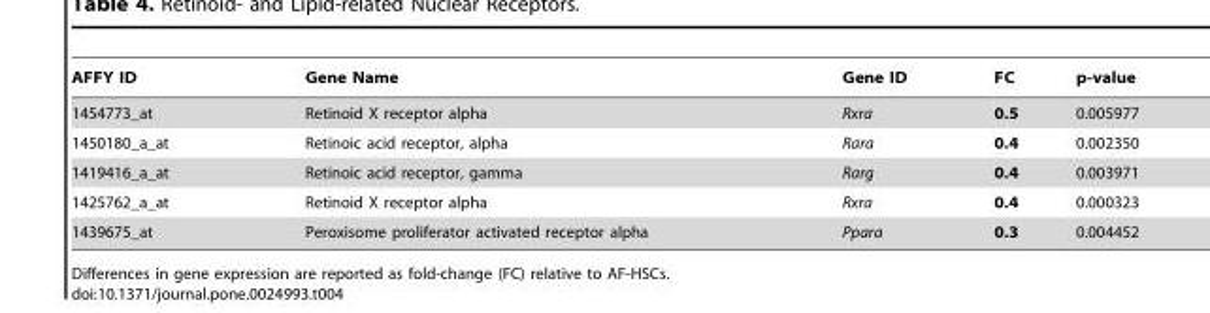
<table><thead><tr><td>AFFY ID</td><td>Gene Name</td><td>Gene ID</td><td>FC</td><td>p-value</td></tr></thead><tbody><tr><td>1454773_at</td><td>Retinoid X receptor alpha</td><td>Rxra</td><td>0.5</td><td>0.005977</td></tr><tr><td>1450180_a_at</td><td>Retinoic acid receptor, alpha</td><td>Rara</td><td>0.4</td><td>0.002350</td></tr><tr><td>1419416_a_at</td><td>Retinoic acid receptor, gamma</td><td>Rarg</td><td>0.4</td><td>0.003971</td></tr><tr><td>1425762_a_at</td><td>Retinoid X receptor alpha</td><td>Rxra</td><td>0.4</td><td>0.000323</td></tr><tr><td>1439675_at</td><td>Peroxisome proliferator activated receptor alpha</td><td>Ppara</td><td>0.3</td><td>0.004452</td></tr></tbody></table>